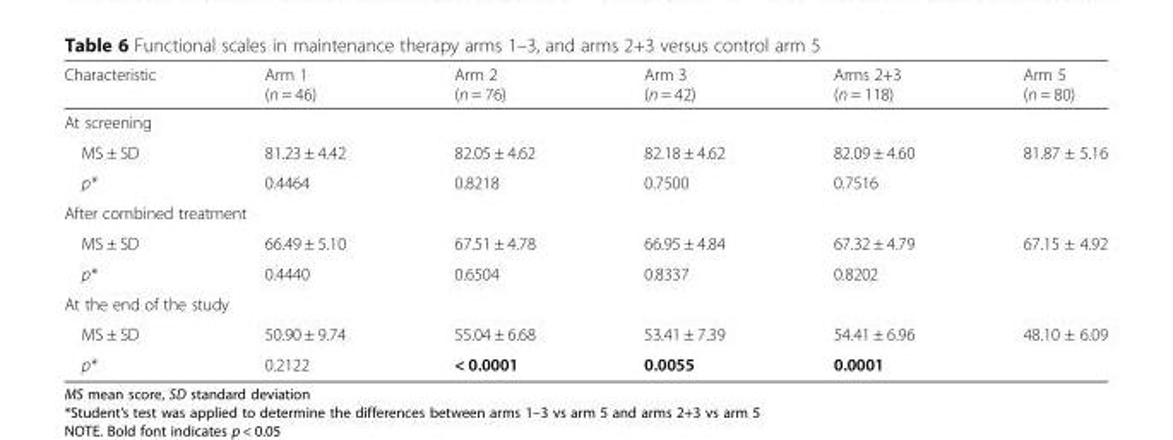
<table><thead><tr><td>Characteristic</td><td>Arm 1 (n = 46)</td><td>Arm 2 (n = 76)</td><td>Arm 3 (n = 42)</td><td>Arms 2+3 (n = 118)</td><td>Arm 5 (n = 80)</td></tr></thead><tbody><tr><td colspan="6">At screening</td></tr><tr><td>MS ± SD</td><td>81.23 ± 4.42</td><td>82.05 ± 4.62</td><td>82.18 ± 4.62</td><td>82.09 ± 4.60</td><td>81.87 ± 5.16</td></tr><tr><td>p*</td><td>0.4464</td><td>0.8218</td><td>0.7500</td><td>0.7516</td><td></td></tr><tr><td colspan="6">After combined treatment</td></tr><tr><td>MS ± SD</td><td>66.49 ± 5.10</td><td>67.51 ± 4.78</td><td>66.95 ± 4.84</td><td>67.32 ± 4.79</td><td>67.15 ± 4.92</td></tr><tr><td>p*</td><td>0.4440</td><td>0.6504</td><td>0.8337</td><td>0.8202</td><td></td></tr><tr><td colspan="6">At the end of the study</td></tr><tr><td>MS ± SD</td><td>50.90 ± 9.74</td><td>55.04 ± 6.68</td><td>53.41 ± 7.39</td><td>54.41 ± 6.96</td><td>48.10 ± 6.09</td></tr><tr><td>p*</td><td>0.2122</td><td>&lt; 0.0001</td><td>0.0055</td><td>0.0001</td><td></td></tr></tbody></table>